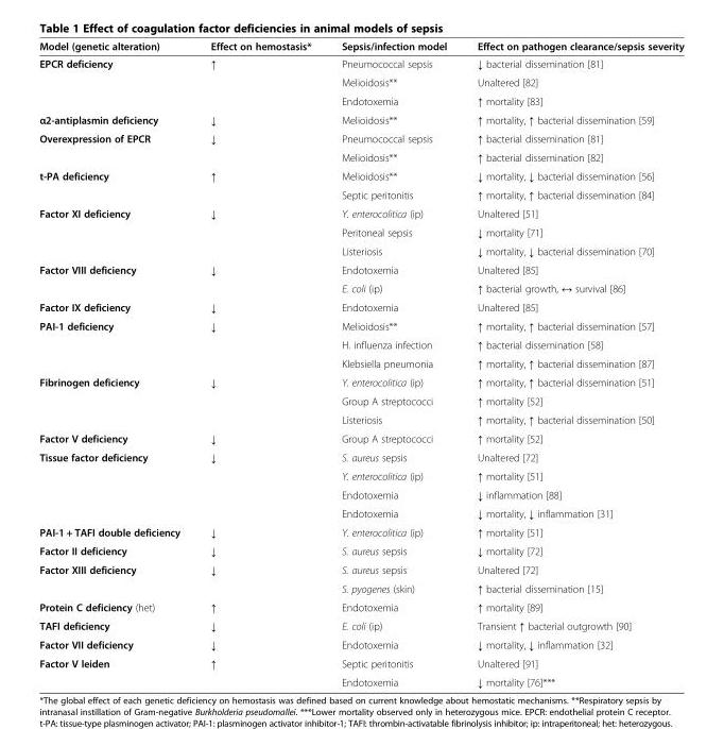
<table><thead><tr><td>Model (genetic alteration)</td><td>Effect on hemostasis*</td><td>Sepsis/infection model</td><td>Effect on pathogen clearance/sepsis severity</td></tr></thead><tbody><tr><td rowspan="3">EPCR deficiency</td><td rowspan="3">↑</td><td>Pneumococcal sepsis</td><td>↓ bacterial dissemination [81]</td></tr><tr><td>Melioidosis**</td><td>Unaltered [82]</td></tr><tr><td>Endotoxemia</td><td>↑ mortality [83]</td></tr><tr><td>α2-antiplasmin deficiency</td><td>↓</td><td>Melioidosis**</td><td>↑ mortality, ↑ bacterial dissemination [59]</td></tr><tr><td rowspan="2">Overexpression of EPCR</td><td rowspan="2">↓</td><td>Pneumococcal sepsis</td><td>↑ bacterial dissemination [81]</td></tr><tr><td>Melioidosis**</td><td>↑ bacterial dissemination [82]</td></tr><tr><td rowspan="2">t-PA deficiency</td><td rowspan="2">↑</td><td>Melioidosis**</td><td>↓ mortality, ↓ bacterial dissemination [56]</td></tr><tr><td>Septic peritonitis</td><td>↑ mortality, ↑ bacterial dissemination [84]</td></tr><tr><td rowspan="3">Factor XI deficiency</td><td rowspan="3">↓</td><td>Y. enterocolitica (ip)</td><td>Unaltered [51]</td></tr><tr><td>Peritoneal sepsis</td><td>↓ mortality [71]</td></tr><tr><td>Listeriosis</td><td>↓ mortality, ↓ bacterial dissemination [70]</td></tr><tr><td rowspan="2">Factor VIII deficiency</td><td rowspan="2">↓</td><td>Endotoxemia</td><td>Unaltered [85]</td></tr><tr><td>E. coli (ip)</td><td>↑ bacterial growth, ↔ survival [86]</td></tr><tr><td>Factor IX deficiency</td><td>↓</td><td>Endotoxemia</td><td>Unaltered [85]</td></tr><tr><td rowspan="3">PAI-1 deficiency</td><td rowspan="3">↓</td><td>Melioidosis**</td><td>↑ mortality, ↑ bacterial dissemination [57]</td></tr><tr><td>H. influenza infection</td><td>↑ bacterial dissemination [58]</td></tr><tr><td>Klebsiella pneumonia</td><td>↑ mortality, ↑ bacterial dissemination [87]</td></tr><tr><td rowspan="3">Fibrinogen deficiency</td><td rowspan="3">↓</td><td>Y. enterocolitica (ip)</td><td>↑ mortality, ↑ bacterial dissemination [51]</td></tr><tr><td>Group A streptococci</td><td>↑ mortality [52]</td></tr><tr><td>Listeriosis</td><td>↑ mortality, ↑ bacterial dissemination [50]</td></tr><tr><td>Factor V deficiency</td><td>↓</td><td>Group A streptococci</td><td>↑ mortality [52]</td></tr><tr><td rowspan="4">Tissue factor deficiency</td><td rowspan="4">↓</td><td>S. aureus sepsis</td><td>Unaltered [72]</td></tr><tr><td>Y. enterocolitica (ip)</td><td>↑ mortality [51]</td></tr><tr><td>Endotoxemia</td><td>↓ inflammation [88]</td></tr><tr><td>Endotoxemia</td><td>↓ mortality, ↓ inflammation [31]</td></tr><tr><td>PAI-1 + TAFI double deficiency</td><td>↓</td><td>Y. enterocolitica (ip)</td><td>↑ mortality [51]</td></tr><tr><td>Factor II deficiency</td><td>↓</td><td>S. aureus sepsis</td><td>↓ mortality [72]</td></tr><tr><td rowspan="2">Factor XIII deficiency</td><td rowspan="2">↓</td><td>S. aureus sepsis</td><td>Unaltered [72]</td></tr><tr><td>S. pyogenes (skin)</td><td>↑ bacterial dissemination [15]</td></tr><tr><td>Protein C deficiency (het)</td><td>↑</td><td>Endotoxemia</td><td>↑ mortality [89]</td></tr><tr><td>TAFI deficiency</td><td>↓</td><td>E. coli (ip)</td><td>Transient ↑ bacterial outgrowth [90]</td></tr><tr><td>Factor VII deficiency</td><td>↓</td><td>Endotoxemia</td><td>↓ mortality, ↓ inflammation [32]</td></tr><tr><td rowspan="2">Factor V leiden</td><td rowspan="2">↑</td><td>Septic peritonitis</td><td>Unaltered [91]</td></tr><tr><td>Endotoxemia</td><td>↓ mortality [76]***</td></tr></tbody></table>